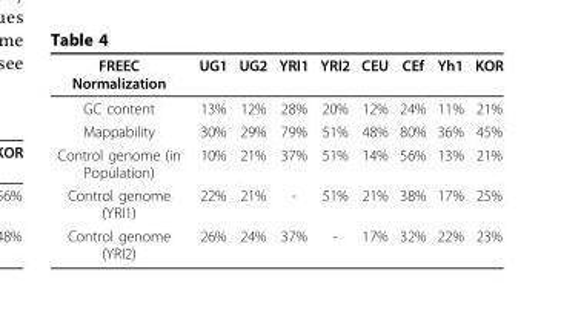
<table><thead><tr><td>FREEC Normalization</td><td>UG1</td><td>UG2</td><td>YRI1</td><td>YRI2</td><td>CEU</td><td>CEf</td><td>Yh1</td><td>KOR</td></tr></thead><tbody><tr><td>GC content</td><td>13%</td><td>12%</td><td>28%</td><td>20%</td><td>12%</td><td>24%</td><td>11%</td><td>21%</td></tr><tr><td>Mappability</td><td>30%</td><td>29%</td><td>79%</td><td>51%</td><td>48%</td><td>80%</td><td>36%</td><td>45%</td></tr><tr><td>Control genome (in Population)</td><td>10%</td><td>21%</td><td>37%</td><td>51%</td><td>14%</td><td>56%</td><td>13%</td><td>21%</td></tr><tr><td>Control genome (YRI1)</td><td>22%</td><td>21%</td><td>-</td><td>51%</td><td>21%</td><td>38%</td><td>17%</td><td>25%</td></tr><tr><td>Control genome (YRI2)</td><td>26%</td><td>24%</td><td>37%</td><td>-</td><td>17%</td><td>32%</td><td>22%</td><td>23%</td></tr></tbody></table>